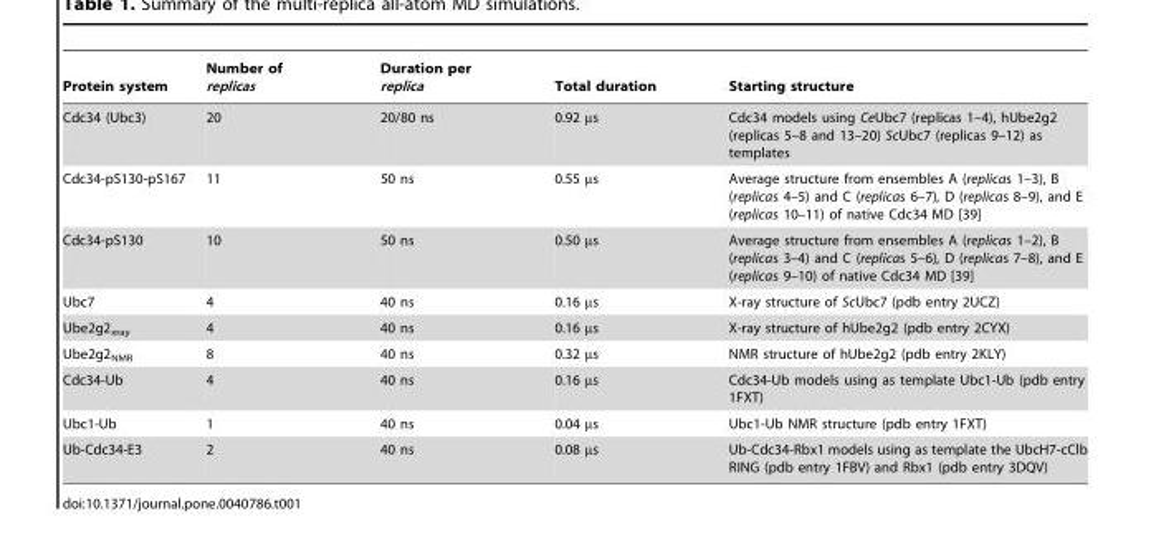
<table><thead><tr><td>Protein system</td><td>Number of replicas</td><td>Duration per replica</td><td>Total duration</td><td>Starting structure</td></tr></thead><tbody><tr><td>Cdc34 (Ubc3)</td><td>20</td><td>20/80 ns</td><td>0.92 µs</td><td>Cdc34 models using CeUbc7 (replicas 1–4), hUbe2g2 (replicas 5–8 and 13–20) ScUbc7 (replicas 9–12) as templates</td></tr><tr><td>Cdc34-pS130-pS167</td><td>11</td><td>50 ns</td><td>0.55 µs</td><td>Average structure from ensembles A (replicas 1–3), B (replicas 4–5) and C (replicas 6–7), D (replicas 8–9), and E (replicas 10–11) of native Cdc34 MD [39]</td></tr><tr><td>Cdc34-pS130</td><td>10</td><td>50 ns</td><td>0.50 µs</td><td>Average structure from ensembles A (replicas 1–2), B (replicas 3–4) and C (replicas 5–6), D (replicas 7–8), and E (replicas 9–10) of native Cdc34 MD [39]</td></tr><tr><td>Ubc7</td><td>4</td><td>40 ns</td><td>0.16 µs</td><td>X-ray structure of ScUbc7 (pdb entry 2UCZ)</td></tr><tr><td>Ube2g2<sub>xray</sub></td><td>4</td><td>40 ns</td><td>0.16 µs</td><td>X-ray structure of hUbe2g2 (pdb entry 2CYX)</td></tr><tr><td>Ube2g2<sub>NMR</sub></td><td>8</td><td>40 ns</td><td>0.32 µs</td><td>NMR structure of hUbe2g2 (pdb entry 2KLY)</td></tr><tr><td>Cdc34-Ub</td><td>4</td><td>40 ns</td><td>0.16 µs</td><td>Cdc34-Ub models using as template Ubc1-Ub (pdb entry 1FXT)</td></tr><tr><td>Ubc1-Ub</td><td>1</td><td>40 ns</td><td>0.04 µs</td><td>Ubc1-Ub NMR structure (pdb entry 1FXT)</td></tr><tr><td>Ub-Cdc34-E3</td><td>2</td><td>40 ns</td><td>0.08 µs</td><td>Ub-Cdc34-Rbx1 models using as template the UbcH7-cClb RING (pdb entry 1FBV) and Rbx1 (pdb entry 3DQV)</td></tr></tbody></table>